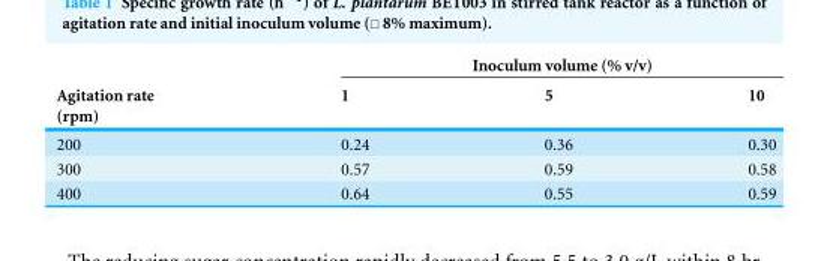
<table><thead><tr><td rowspan="2">Agitation rate (rpm)</td><td colspan="3">Inoculum volume (% v/v)</td></tr><tr><td>1</td><td>5</td><td>10</td></tr></thead><tbody><tr><td>200</td><td>0.24</td><td>0.36</td><td>0.30</td></tr><tr><td>300</td><td>0.57</td><td>0.59</td><td>0.58</td></tr><tr><td>400</td><td>0.64</td><td>0.55</td><td>0.59</td></tr></tbody></table>